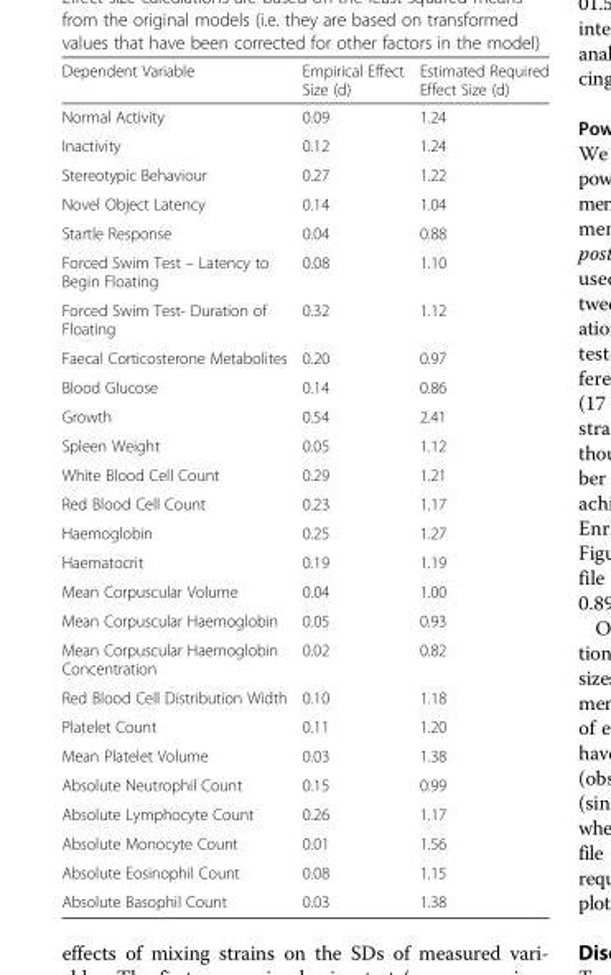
<table><thead><tr><td>Dependent Variable</td><td>Empirical Effect Size (d)</td><td>Estimated Required Effect Size (d)</td></tr></thead><tbody><tr><td>Normal Activity</td><td>0.09</td><td>1.24</td></tr><tr><td>Inactivity</td><td>0.12</td><td>1.24</td></tr><tr><td>Stereotypic Behaviour</td><td>0.27</td><td>1.22</td></tr><tr><td>Novel Object Latency</td><td>0.14</td><td>1.04</td></tr><tr><td>Startle Response</td><td>0.04</td><td>0.88</td></tr><tr><td>Forced Swim Test – Latency to Begin Floating</td><td>0.08</td><td>1.10</td></tr><tr><td>Forced Swim Test- Duration of Floating</td><td>0.32</td><td>1.12</td></tr><tr><td>Faecal Corticosterone Metabolites</td><td>0.20</td><td>0.97</td></tr><tr><td>Blood Glucose</td><td>0.14</td><td>0.86</td></tr><tr><td>Growth</td><td>0.54</td><td>2.41</td></tr><tr><td>Spleen Weight</td><td>0.05</td><td>1.12</td></tr><tr><td>White Blood Cell Count</td><td>0.29</td><td>1.21</td></tr><tr><td>Red Blood Cell Count</td><td>0.23</td><td>1.17</td></tr><tr><td>Haemoglobin</td><td>0.25</td><td>1.27</td></tr><tr><td>Haematocrit</td><td>0.19</td><td>1.19</td></tr><tr><td>Mean Corpuscular Volume</td><td>0.04</td><td>1.00</td></tr><tr><td>Mean Corpuscular Haemoglobin</td><td>0.05</td><td>0.93</td></tr><tr><td>Mean Corpuscular Haemoglobin Concentration</td><td>0.02</td><td>0.82</td></tr><tr><td>Red Blood Cell Distribution Width</td><td>0.10</td><td>1.18</td></tr><tr><td>Platelet Count</td><td>0.11</td><td>1.20</td></tr><tr><td>Mean Platelet Volume</td><td>0.03</td><td>1.38</td></tr><tr><td>Absolute Neutrophil Count</td><td>0.15</td><td>0.99</td></tr><tr><td>Absolute Lymphocyte Count</td><td>0.26</td><td>1.17</td></tr><tr><td>Absolute Monocyte Count</td><td>0.01</td><td>1.56</td></tr><tr><td>Absolute Eosinophil Count</td><td>0.08</td><td>1.15</td></tr><tr><td>Absolute Basophil Count</td><td>0.03</td><td>1.38</td></tr></tbody></table>